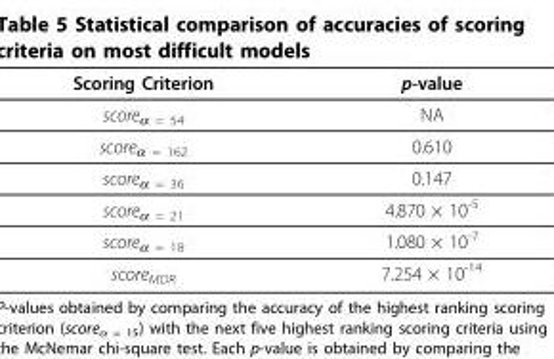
<table><thead><tr><td>Scoring Criterion</td><td>p-value</td></tr></thead><tbody><tr><td>score<sub>α = 54</sub></td><td>NA</td></tr><tr><td>score<sub>α = 162</sub></td><td>0.610</td></tr><tr><td>score<sub>α = 36</sub></td><td>0.147</td></tr><tr><td>score<sub>α = 21</sub></td><td>4.870 × 10<sup>-5</sup></td></tr><tr><td>score<sub>α = 18</sub></td><td>1.080 × 10<sup>-7</sup></td></tr><tr><td>score<sub>MDR</sub></td><td>7.254 × 10<sup>-14</sup></td></tr></tbody></table>